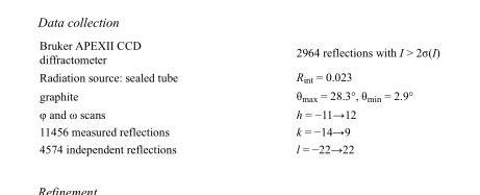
<table><tbody><tr><td>Bruker APEXII CCD diffractometer</td><td>2964 reflections with I &gt; 2σ(I)</td></tr><tr><td>Radiation source: sealed tube</td><td>R<sub>int</sub> = 0.023</td></tr><tr><td>graphite</td><td>θ<sub>max</sub> = 28.3°, θ<sub>min</sub> = 2.9°</td></tr><tr><td>φ and ω scans</td><td>h = −11→12</td></tr><tr><td>11456 measured reflections</td><td>k = −14→9</td></tr><tr><td>4574 independent reflections</td><td>l = −22→22</td></tr></tbody></table>